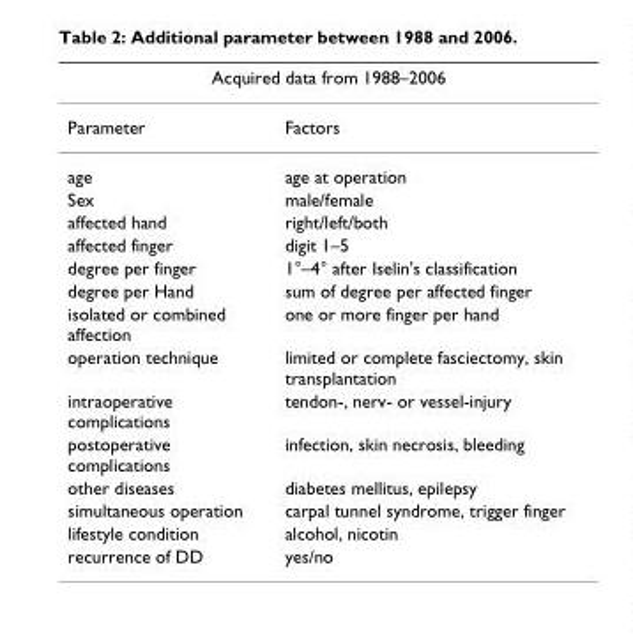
<table><thead><tr><td colspan="2">Acquired data from 1988–2006</td></tr><tr><td>Parameter</td><td>Factors</td></tr></thead><tbody><tr><td>age</td><td>age at operation</td></tr><tr><td>Sex</td><td>male/female</td></tr><tr><td>affected hand</td><td>right/left/both</td></tr><tr><td>affected finger</td><td>digit 1–5</td></tr><tr><td>degree per finger</td><td>1°–4° after Iselin&#x27;s classification</td></tr><tr><td>degree per Hand</td><td>sum of degree per affected finger</td></tr><tr><td>isolated or combined affection</td><td>one or more finger per hand</td></tr><tr><td>operation technique</td><td>limited or complete fasciectomy, skin transplantation</td></tr><tr><td>intraoperative complications</td><td>tendon-, nerv- or vessel-injury</td></tr><tr><td>postoperative complications</td><td>infection, skin necrosis, bleeding</td></tr><tr><td>other diseases</td><td>diabetes mellitus, epilepsy</td></tr><tr><td>simultaneous operation</td><td>carpal tunnel syndrome, trigger finger</td></tr><tr><td>lifestyle condition</td><td>alcohol, nicotin</td></tr><tr><td>recurrence of DD</td><td>yes/no</td></tr></tbody></table>